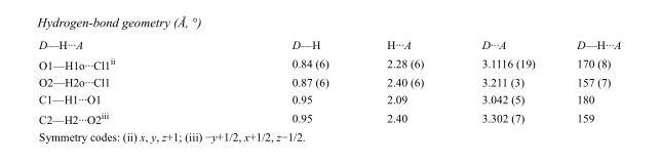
<table><tbody><tr><td>D—H···A</td><td>D—H</td><td>H···A</td><td>D···A</td><td>D—H···A</td></tr><tr><td>O1—H1o···Cl1<sup>ii</sup></td><td>0.84 (6)</td><td>2.28 (6)</td><td>3.1116 (19)</td><td>170 (8)</td></tr><tr><td>O2—H2o···Cl1</td><td>0.87 (6)</td><td>2.40 (6)</td><td>3.211 (3)</td><td>157 (7)</td></tr><tr><td>C1—H1···O1</td><td>0.95</td><td>2.09</td><td>3.042 (5)</td><td>180</td></tr><tr><td>C2—H2···O2<sup>iii</sup></td><td>0.95</td><td>2.40</td><td>3.302 (7)</td><td>159</td></tr></tbody></table>